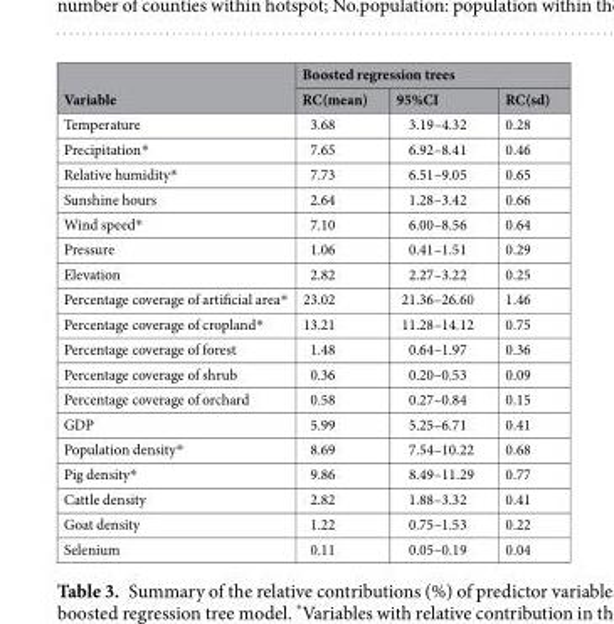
<table><thead><tr><td rowspan="2">Variable</td><td colspan="3">Boosted regression trees</td></tr><tr><td>RC(mean)</td><td>95%CI</td><td>RC(sd)</td></tr></thead><tbody><tr><td>Temperature</td><td>3.68</td><td>3.19–4.32</td><td>0.28</td></tr><tr><td>Precipitation*</td><td>7.65</td><td>6.92–8.41</td><td>0.46</td></tr><tr><td>Relative humidity*</td><td>7.73</td><td>6.51–9.05</td><td>0.65</td></tr><tr><td>Sunshine hours</td><td>2.64</td><td>1.28–3.42</td><td>0.66</td></tr><tr><td>Wind speed*</td><td>7.10</td><td>6.00–8.56</td><td>0.64</td></tr><tr><td>Pressure</td><td>1.06</td><td>0.41–1.51</td><td>0.29</td></tr><tr><td>Elevation</td><td>2.82</td><td>2.27–3.22</td><td>0.25</td></tr><tr><td>Percentage coverage of artificial area*</td><td>23.02</td><td>21.36–26.60</td><td>1.46</td></tr><tr><td>Percentage coverage of cropland*</td><td>13.21</td><td>11.28–14.12</td><td>0.75</td></tr><tr><td>Percentage coverage of forest</td><td>1.48</td><td>0.64–1.97</td><td>0.36</td></tr><tr><td>Percentage coverage of shrub</td><td>0.36</td><td>0.20–0.53</td><td>0.09</td></tr><tr><td>Percentage coverage of orchard</td><td>0.58</td><td>0.27–0.84</td><td>0.15</td></tr><tr><td>GDP</td><td>5.99</td><td>5.25–6.71</td><td>0.41</td></tr><tr><td>Population density*</td><td>8.69</td><td>7.54–10.22</td><td>0.68</td></tr><tr><td>Pig density*</td><td>9.86</td><td>8.49–11.29</td><td>0.77</td></tr><tr><td>Cattle density</td><td>2.82</td><td>1.88–3.32</td><td>0.41</td></tr><tr><td>Goat density</td><td>1.22</td><td>0.75–1.53</td><td>0.22</td></tr><tr><td>Selenium</td><td>0.11</td><td>0.05–0.19</td><td>0.04</td></tr></tbody></table>